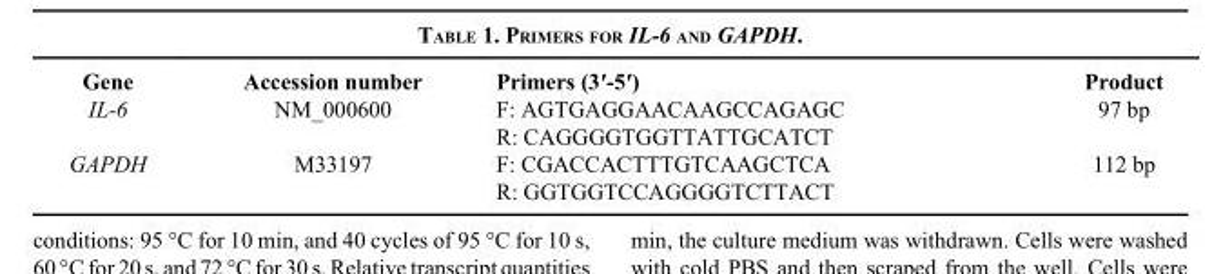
<table><thead><tr><td>Gene</td><td>Accession number</td><td>Primers (3′-5′)</td><td>Product</td></tr></thead><tbody><tr><td rowspan="2">IL-6</td><td>NM_000600</td><td>F: AGTGAGGAACAAGCCAGAGC</td><td>97 bp</td></tr><tr><td></td><td>R: CAGGGGTGGTTATTGCATCT</td><td></td></tr><tr><td rowspan="2">GAPDH</td><td>M33197</td><td>F: CGACCACTTTGTCAAGCTCA</td><td>112 bp</td></tr><tr><td></td><td>R: GGTGGTCCAGGGGTCTTACT</td><td></td></tr></tbody></table>